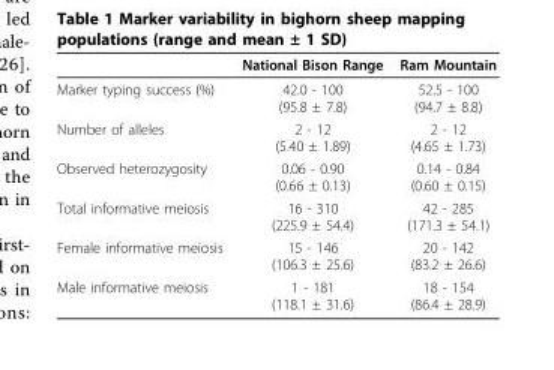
<table><thead><tr><td></td><td>National Bison Range</td><td>Ram Mountain</td></tr></thead><tbody><tr><td>Marker typing success (%)</td><td>42.0 - 100 (95.8 ± 7.8)</td><td>52.5 - 100 (94.7 ± 8.8)</td></tr><tr><td>Number of alleles</td><td>2 - 12 (5.40 ± 1.89)</td><td>2 - 12 (4.65 ± 1.73)</td></tr><tr><td>Observed heterozygosity</td><td>0.06 - 0.90 (0.66 ± 0.13)</td><td>0.14 - 0.84 (0.60 ± 0.15)</td></tr><tr><td>Total informative meiosis</td><td>16 - 310 (225.9 ± 54.4)</td><td>42 - 285 (171.3 ± 54.1)</td></tr><tr><td>Female informative meiosis</td><td>15 - 146 (106.3 ± 25.6)</td><td>20 - 142 (83.2 ± 26.6)</td></tr><tr><td>Male informative meiosis</td><td>1 - 181 (118.1 ± 31.6)</td><td>18 - 154 (86.4 ± 28.9)</td></tr></tbody></table>